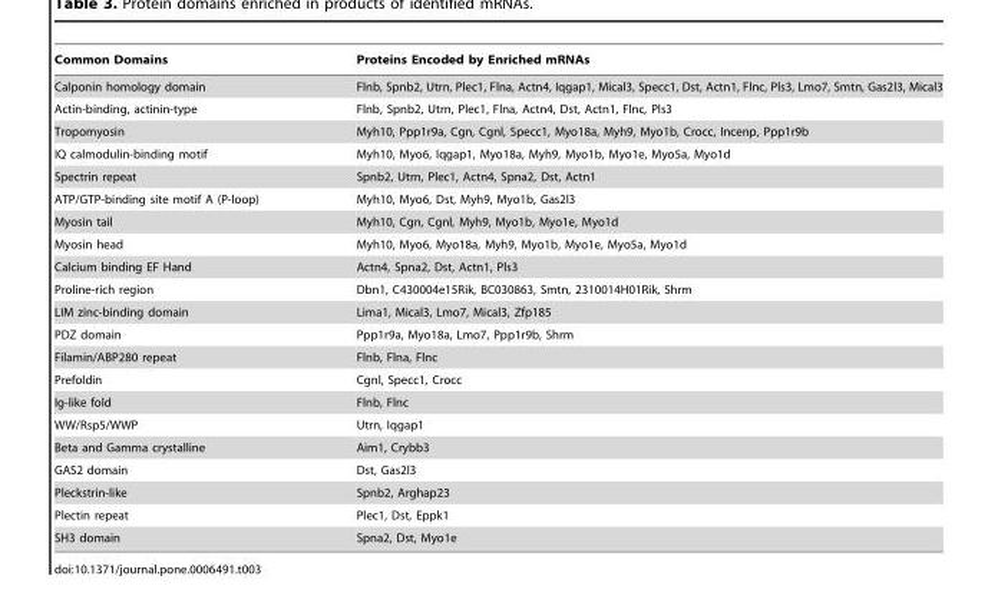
<table><thead><tr><td>Common Domains</td><td>Proteins Encoded by Enriched mRNAs</td></tr></thead><tbody><tr><td>Calponin homology domain</td><td>Flnb, Spnb2, Utrn, Plec1, Flna, Actn4, Iqgap1, Mical3, Specc1, Dst, Actn1, Flnc, Pls3, Lmo7, Smtn, Gas2l3, Mical3</td></tr><tr><td>Actin-binding, actinin-type</td><td>Flnb, Spnb2, Utrn, Plec1, Flna, Actn4, Dst, Actn1, Flnc, Pls3</td></tr><tr><td>Tropomyosin</td><td>Myh10, Ppp1r9a, Cgn, Cgnl, Specc1, Myo18a, Myh9, Myo1b, Crocc, Incenp, Ppp1r9b</td></tr><tr><td>IQ calmodulin-binding motif</td><td>Myh10, Myo6, Iqgap1, Myo18a, Myh9, Myo1b, Myo1e, Myo5a, Myo1d</td></tr><tr><td>Spectrin repeat</td><td>Spnb2, Utrn, Plec1, Actn4, Spna2, Dst, Actn1</td></tr><tr><td>ATP/GTP-binding site motif A (P-loop)</td><td>Myh10, Myo6, Dst, Myh9, Myo1b, Gas2l3</td></tr><tr><td>Myosin tail</td><td>Myh10, Cgn, Cgnl, Myh9, Myo1b, Myo1e, Myo1d</td></tr><tr><td>Myosin head</td><td>Myh10, Myo6, Myo18a, Myh9, Myo1b, Myo1e, Myo5a, Myo1d</td></tr><tr><td>Calcium binding EF Hand</td><td>Actn4, Spna2, Dst, Actn1, Pls3</td></tr><tr><td>Proline-rich region</td><td>Dbn1, C430004e15Rik, BC030863, Smtn, 2310014H01Rik, Shrm</td></tr><tr><td>LIM zinc-binding domain</td><td>Lima1, Mical3, Lmo7, Mical3, Zfp185</td></tr><tr><td>PDZ domain</td><td>Ppp1r9a, Myo18a, Lmo7, Ppp1r9b, Shrm</td></tr><tr><td>Filamin/ABP280 repeat</td><td>Flnb, Flna, Flnc</td></tr><tr><td>Prefoldin</td><td>Cgnl, Specc1, Crocc</td></tr><tr><td>Ig-like fold</td><td>Flnb, Flnc</td></tr><tr><td>WW/Rsp5/WWP</td><td>Utrn, Iqgap1</td></tr><tr><td>Beta and Gamma crystalline</td><td>Aim1, Crybb3</td></tr><tr><td>GAS2 domain</td><td>Dst, Gas2l3</td></tr><tr><td>Pleckstrin-like</td><td>Spnb2, Arghap23</td></tr><tr><td>Plectin repeat</td><td>Plec1, Dst, Eppk1</td></tr><tr><td>SH3 domain</td><td>Spna2, Dst, Myo1e</td></tr></tbody></table>